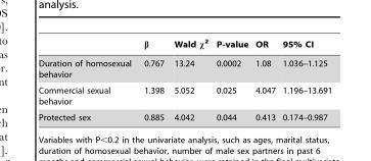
<table><thead><tr><td></td><td>β</td><td>Wald χ<sup>2</sup></td><td>P-value</td><td>OR</td><td>95% CI</td></tr></thead><tbody><tr><td>Duration of homosexual behavior</td><td>0.767</td><td>13.24</td><td>0.0002</td><td>1.08</td><td>1.036–1.125</td></tr><tr><td>Commercial sexual behavior</td><td>1.398</td><td>5.052</td><td>0.025</td><td>4.047</td><td>1.196–13.691</td></tr><tr><td>Protected sex</td><td>0.885</td><td>4.042</td><td>0.044</td><td>0.413</td><td>0.174–0.987</td></tr></tbody></table>